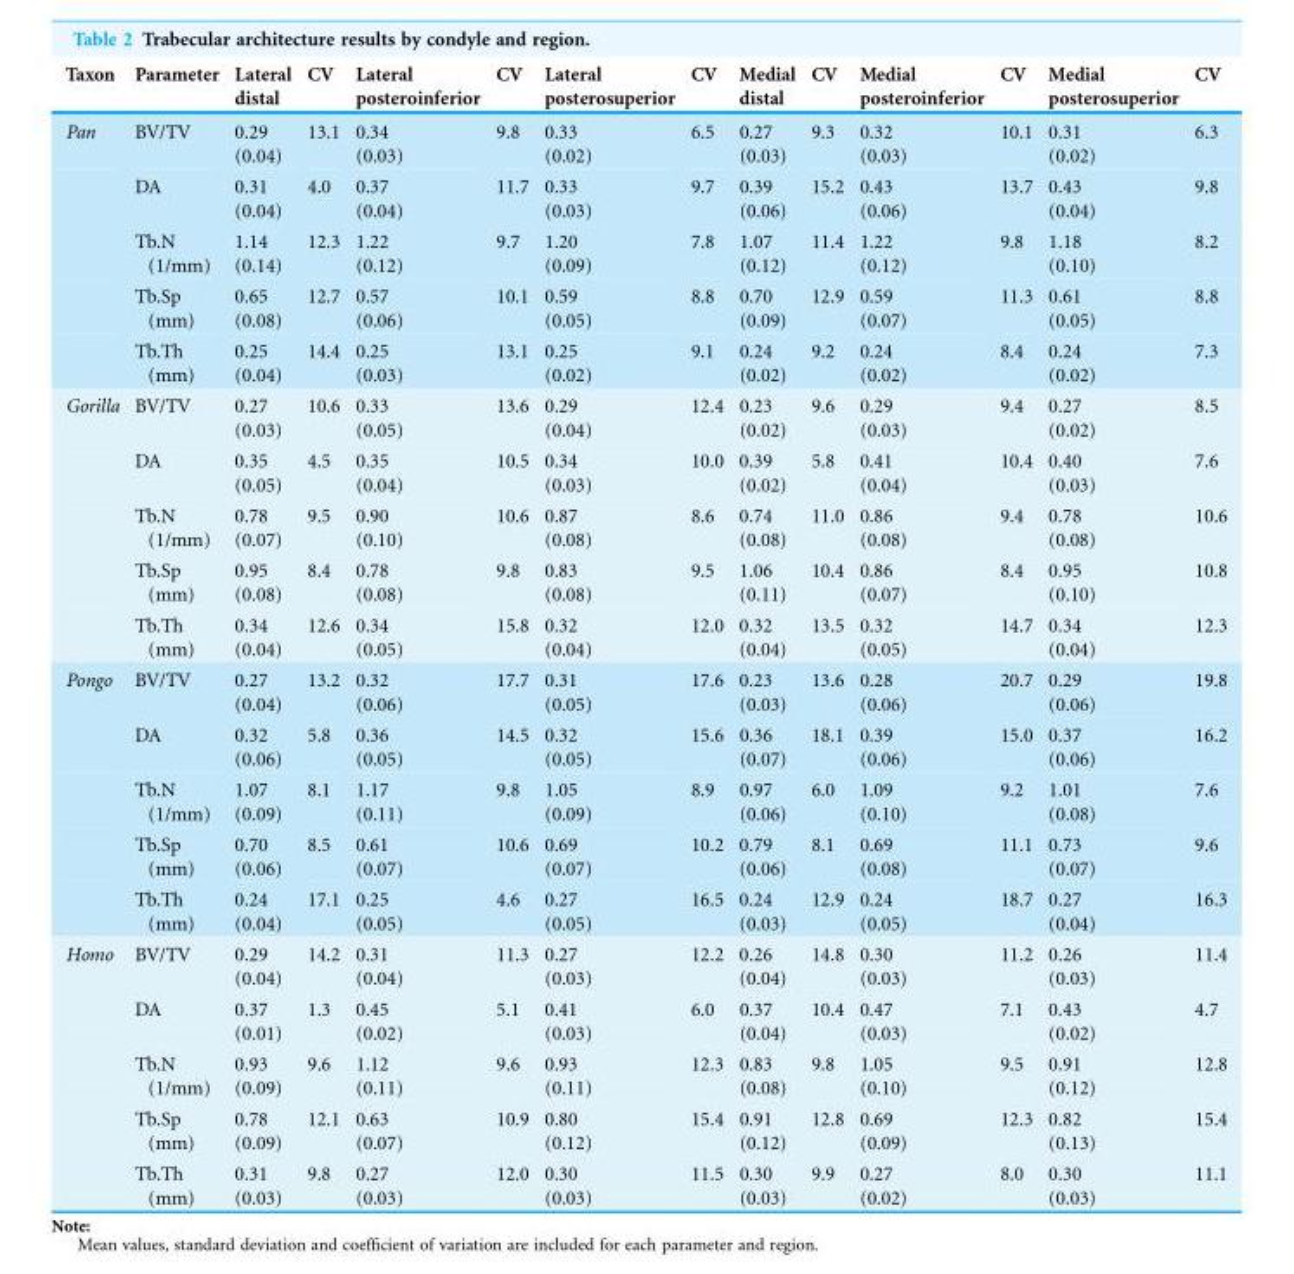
<table><thead><tr><td>Taxon</td><td>Parameter</td><td>Lateral distal</td><td>CV</td><td>Lateral posteroinferior</td><td>CV</td><td>Lateral posterosuperior</td><td>CV</td><td>Medial distal</td><td>CV</td><td>Medial posteroinferior</td><td>CV</td><td>Medial posterosuperior</td><td>CV</td></tr></thead><tbody><tr><td rowspan="5">Pan</td><td>BV/TV</td><td>0.29 (0.04)</td><td>13.1</td><td>0.34 (0.03)</td><td>9.8</td><td>0.33 (0.02)</td><td>6.5</td><td>0.27 (0.03)</td><td>9.3</td><td>0.32 (0.03)</td><td>10.1</td><td>0.31 (0.02)</td><td>6.3</td></tr><tr><td>DA</td><td>0.31 (0.04)</td><td>4.0</td><td>0.37 (0.04)</td><td>11.7</td><td>0.33 (0.03)</td><td>9.7</td><td>0.39 (0.06)</td><td>15.2</td><td>0.43 (0.06)</td><td>13.7</td><td>0.43 (0.04)</td><td>9.8</td></tr><tr><td>Tb.N (1/mm)</td><td>1.14 (0.14)</td><td>12.3</td><td>1.22 (0.12)</td><td>9.7</td><td>1.20 (0.09)</td><td>7.8</td><td>1.07 (0.12)</td><td>11.4</td><td>1.22 (0.12)</td><td>9.8</td><td>1.18 (0.10)</td><td>8.2</td></tr><tr><td>Tb.Sp (mm)</td><td>0.65 (0.08)</td><td>12.7</td><td>0.57 (0.06)</td><td>10.1</td><td>0.59 (0.05)</td><td>8.8</td><td>0.70 (0.09)</td><td>12.9</td><td>0.59 (0.07)</td><td>11.3</td><td>0.61 (0.05)</td><td>8.8</td></tr><tr><td>Tb.Th (mm)</td><td>0.25 (0.04)</td><td>14.4</td><td>0.25 (0.03)</td><td>13.1</td><td>0.25 (0.02)</td><td>9.1</td><td>0.24 (0.02)</td><td>9.2</td><td>0.24 (0.02)</td><td>8.4</td><td>0.24 (0.02)</td><td>7.3</td></tr><tr><td rowspan="5">Gorilla</td><td>BV/TV</td><td>0.27 (0.03)</td><td>10.6</td><td>0.33 (0.05)</td><td>13.6</td><td>0.29 (0.04)</td><td>12.4</td><td>0.23 (0.02)</td><td>9.6</td><td>0.29 (0.03)</td><td>9.4</td><td>0.27 (0.02)</td><td>8.5</td></tr><tr><td>DA</td><td>0.35 (0.05)</td><td>4.5</td><td>0.35 (0.04)</td><td>10.5</td><td>0.34 (0.03)</td><td>10.0</td><td>0.39 (0.02)</td><td>5.8</td><td>0.41 (0.04)</td><td>10.4</td><td>0.40 (0.03)</td><td>7.6</td></tr><tr><td>Tb.N (1/mm)</td><td>0.78 (0.07)</td><td>9.5</td><td>0.90 (0.10)</td><td>10.6</td><td>0.87 (0.08)</td><td>8.6</td><td>0.74 (0.08)</td><td>11.0</td><td>0.86 (0.08)</td><td>9.4</td><td>0.78 (0.08)</td><td>10.6</td></tr><tr><td>Tb.Sp (mm)</td><td>0.95 (0.08)</td><td>8.4</td><td>0.78 (0.08)</td><td>9.8</td><td>0.83 (0.08)</td><td>9.5</td><td>1.06 (0.11)</td><td>10.4</td><td>0.86 (0.07)</td><td>8.4</td><td>0.95 (0.10)</td><td>10.8</td></tr><tr><td>Tb.Th (mm)</td><td>0.34 (0.04)</td><td>12.6</td><td>0.34 (0.05)</td><td>15.8</td><td>0.32 (0.04)</td><td>12.0</td><td>0.32 (0.04)</td><td>13.5</td><td>0.32 (0.05)</td><td>14.7</td><td>0.34 (0.04)</td><td>12.3</td></tr><tr><td rowspan="5">Pongo</td><td>BV/TV</td><td>0.27 (0.04)</td><td>13.2</td><td>0.32 (0.06)</td><td>17.7</td><td>0.31 (0.05)</td><td>17.6</td><td>0.23 (0.03)</td><td>13.6</td><td>0.28 (0.06)</td><td>20.7</td><td>0.29 (0.06)</td><td>19.8</td></tr><tr><td>DA</td><td>0.32 (0.06)</td><td>5.8</td><td>0.36 (0.05)</td><td>14.5</td><td>0.32 (0.05)</td><td>15.6</td><td>0.36 (0.07)</td><td>18.1</td><td>0.39 (0.06)</td><td>15.0</td><td>0.37 (0.06)</td><td>16.2</td></tr><tr><td>Tb.N (1/mm)</td><td>1.07 (0.09)</td><td>8.1</td><td>1.17 (0.11)</td><td>9.8</td><td>1.05 (0.09)</td><td>8.9</td><td>0.97 (0.06)</td><td>6.0</td><td>1.09 (0.10)</td><td>9.2</td><td>1.01 (0.08)</td><td>7.6</td></tr><tr><td>Tb.Sp (mm)</td><td>0.70 (0.06)</td><td>8.5</td><td>0.61 (0.07)</td><td>10.6</td><td>0.69 (0.07)</td><td>10.2</td><td>0.79 (0.06)</td><td>8.1</td><td>0.69 (0.08)</td><td>11.1</td><td>0.73 (0.07)</td><td>9.6</td></tr><tr><td>Tb.Th (mm)</td><td>0.24 (0.04)</td><td>17.1</td><td>0.25 (0.05)</td><td>4.6</td><td>0.27 (0.05)</td><td>16.5</td><td>0.24 (0.03)</td><td>12.9</td><td>0.24 (0.05)</td><td>18.7</td><td>0.27 (0.04)</td><td>16.3</td></tr><tr><td rowspan="5">Homo</td><td>BV/TV</td><td>0.29 (0.04)</td><td>14.2</td><td>0.31 (0.04)</td><td>11.3</td><td>0.27 (0.03)</td><td>12.2</td><td>0.26 (0.04)</td><td>14.8</td><td>0.30 (0.03)</td><td>11.2</td><td>0.26 (0.03)</td><td>11.4</td></tr><tr><td>DA</td><td>0.37 (0.01)</td><td>1.3</td><td>0.45 (0.02)</td><td>5.1</td><td>0.41 (0.03)</td><td>6.0</td><td>0.37 (0.04)</td><td>10.4</td><td>0.47 (0.03)</td><td>7.1</td><td>0.43 (0.02)</td><td>4.7</td></tr><tr><td>Tb.N (1/mm)</td><td>0.93 (0.09)</td><td>9.6</td><td>1.12 (0.11)</td><td>9.6</td><td>0.93 (0.11)</td><td>12.3</td><td>0.83 (0.08)</td><td>9.8</td><td>1.05 (0.10)</td><td>9.5</td><td>0.91 (0.12)</td><td>12.8</td></tr><tr><td>Tb.Sp (mm)</td><td>0.78 (0.09)</td><td>12.1</td><td>0.63 (0.07)</td><td>10.9</td><td>0.80 (0.12)</td><td>15.4</td><td>0.91 (0.12)</td><td>12.8</td><td>0.69 (0.09)</td><td>12.3</td><td>0.82 (0.13)</td><td>15.4</td></tr><tr><td>Tb.Th (mm)</td><td>0.31 (0.03)</td><td>9.8</td><td>0.27 (0.03)</td><td>12.0</td><td>0.30 (0.03)</td><td>11.5</td><td>0.30 (0.03)</td><td>9.9</td><td>0.27 (0.02)</td><td>8.0</td><td>0.30 (0.03)</td><td>11.1</td></tr></tbody></table>